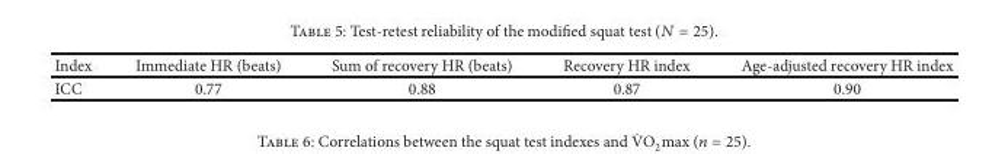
<table><thead><tr><td>Index</td><td>Immediate HR (beats)</td><td>Sum of recovery HR (beats)</td><td>Recovery HR index</td><td>Age-adjusted recovery HR index</td></tr></thead><tbody><tr><td>ICC</td><td>0.77</td><td>0.88</td><td>0.87</td><td>0.90</td></tr></tbody></table>